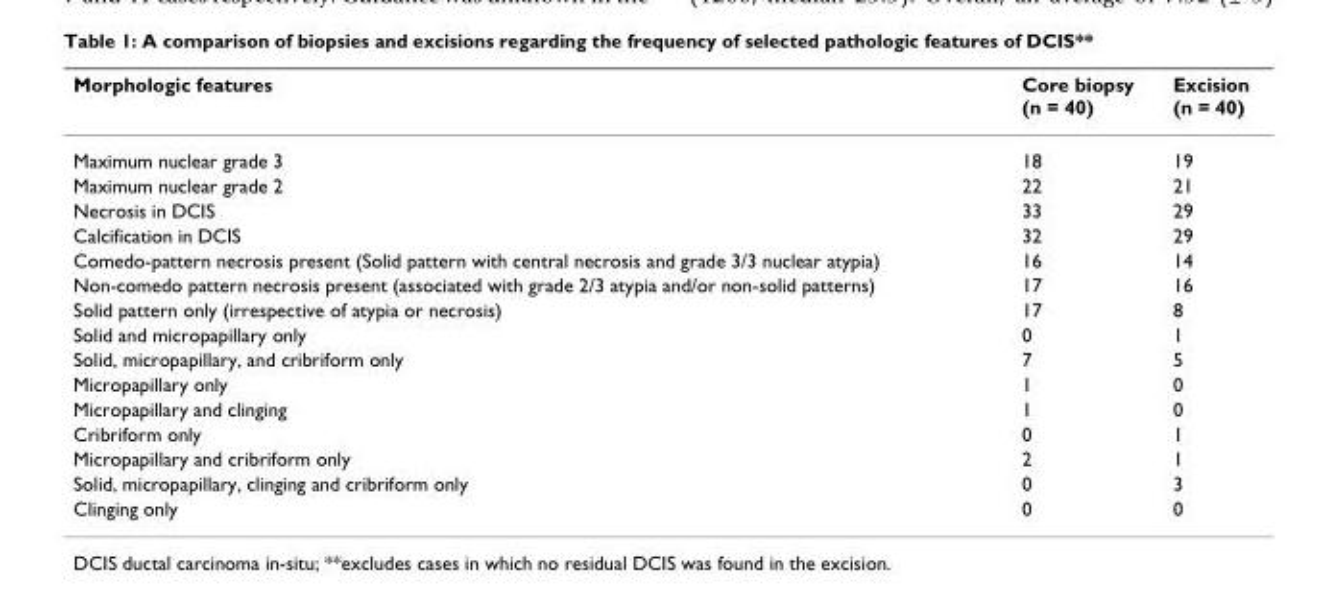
<table><thead><tr><td>Morphologic features</td><td>Core biopsy (n = 40)</td><td>Excision (n = 40)</td></tr></thead><tbody><tr><td>Maximum nuclear grade 3</td><td>18</td><td>19</td></tr><tr><td>Maximum nuclear grade 2</td><td>22</td><td>21</td></tr><tr><td>Necrosis in DCIS</td><td>33</td><td>29</td></tr><tr><td>Calcification in DCIS</td><td>32</td><td>29</td></tr><tr><td>Comedo-pattern necrosis present (Solid pattern with central necrosis and grade 3/3 nuclear atypia)</td><td>16</td><td>14</td></tr><tr><td>Non-comedo pattern necrosis present (associated with grade 2/3 atypia and/or non-solid patterns)</td><td>17</td><td>16</td></tr><tr><td>Solid pattern only (irrespective of atypia or necrosis)</td><td>17</td><td>8</td></tr><tr><td>Solid and micropapillary only</td><td>0</td><td>1</td></tr><tr><td>Solid, micropapillary, and cribriform only</td><td>7</td><td>5</td></tr><tr><td>Micropapillary only</td><td>1</td><td>0</td></tr><tr><td>Micropapillary and clinging</td><td>1</td><td>0</td></tr><tr><td>Cribriform only</td><td>0</td><td>1</td></tr><tr><td>Micropapillary and cribriform only</td><td>2</td><td>1</td></tr><tr><td>Solid, micropapillary, clinging and cribriform only</td><td>0</td><td>3</td></tr><tr><td>Clinging only</td><td>0</td><td>0</td></tr></tbody></table>